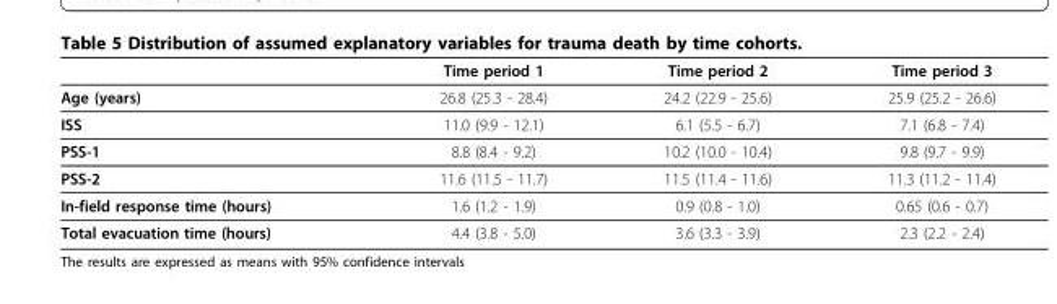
<table><thead><tr><td></td><td>Time period 1</td><td>Time period 2</td><td>Time period 3</td></tr></thead><tbody><tr><td>Age (years)</td><td>26.8 (25.3 - 28.4)</td><td>24.2 (22.9 - 25.6)</td><td>25.9 (25.2 - 26.6)</td></tr><tr><td>ISS</td><td>11.0 (9.9 - 12.1)</td><td>6.1 (5.5 - 6.7)</td><td>7.1 (6.8 - 7.4)</td></tr><tr><td>PSS-1</td><td>8.8 (8.4 - 9.2)</td><td>10.2 (10.0 - 10.4)</td><td>9.8 (9.7 - 9.9)</td></tr><tr><td>PSS-2</td><td>11.6 (11.5 - 11.7)</td><td>11.5 (11.4 - 11.6)</td><td>11.3 (11.2 - 11.4)</td></tr><tr><td>In-field response time (hours)</td><td>1.6 (1.2 - 1.9)</td><td>0.9 (0.8 - 1.0)</td><td>0.65 (0.6 - 0.7)</td></tr><tr><td>Total evacuation time (hours)</td><td>4.4 (3.8 - 5.0)</td><td>3.6 (3.3 - 3.9)</td><td>2.3 (2.2 - 2.4)</td></tr></tbody></table>